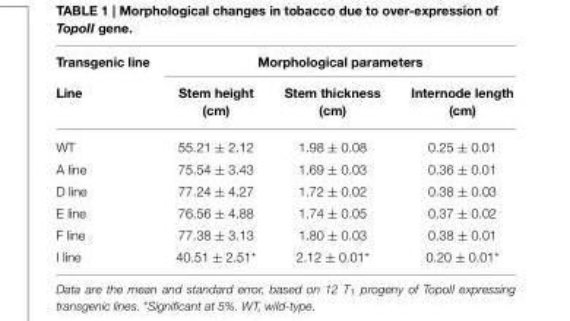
<table><thead><tr><td rowspan="2">Transgenic line Line</td><td colspan="3">Morphological parameters</td></tr><tr><td>Stem height (cm)</td><td>Stem thickness (cm)</td><td>Internode length (cm)</td></tr></thead><tbody><tr><td>WT</td><td>55.21 ± 2.12</td><td>1.98 ± 0.08</td><td>0.25 ± 0.01</td></tr><tr><td>A line</td><td>75.54 ± 3.43</td><td>1.69 ± 0.03</td><td>0.36 ± 0.01</td></tr><tr><td>D line</td><td>77.24 ± 4.27</td><td>1.72 ± 0.02</td><td>0.38 ± 0.03</td></tr><tr><td>E line</td><td>76.56 ± 4.88</td><td>1.74 ± 0.05</td><td>0.37 ± 0.02</td></tr><tr><td>F line</td><td>77.38 ± 3.13</td><td>1.80 ± 0.03</td><td>0.38 ± 0.01</td></tr><tr><td>I line</td><td>40.51 ± 2.51*</td><td>2.12 ± 0.01*</td><td>0.20 ± 0.01*</td></tr></tbody></table>